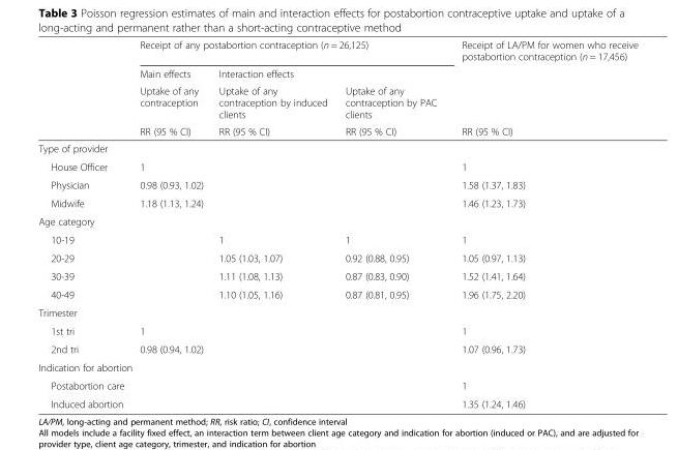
<table><thead><tr><td rowspan="4"></td><td colspan="3">Receipt of any postabortion contraception (n = 26,125)</td><td rowspan="4">Receipt of LA/PM for women who receive postabortion contraception (n = 17,456) RR (95 % CI)</td></tr><tr><td rowspan="3">Main effects Uptake of any contraception RR (95 % CI)</td><td colspan="2">Interaction effects</td></tr><tr><td rowspan="2">Uptake of any contraception by induced clients RR (95 % CI)</td><td rowspan="2">Uptake of any contraception by PAC clients RR (95 % CI)</td></tr><tr></tr></thead><tbody><tr><td colspan="5">Type of provider</td></tr><tr><td>House Officer</td><td>1</td><td></td><td></td><td>1</td></tr><tr><td>Physician</td><td>0.98 (0.93, 1.02)</td><td></td><td></td><td>1.58 (1.37, 1.83)</td></tr><tr><td>Midwife</td><td>1.18 (1.13, 1.24)</td><td></td><td></td><td>1.46 (1.23, 1.73)</td></tr><tr><td colspan="5">Age category</td></tr><tr><td>10-19</td><td></td><td>1</td><td>1</td><td>1</td></tr><tr><td>20-29</td><td></td><td>1.05 (1.03, 1.07)</td><td>0.92 (0.88, 0.95)</td><td>1.05 (0.97, 1.13)</td></tr><tr><td>30-39</td><td></td><td>1.11 (1.08, 1.13)</td><td>0.87 (0.83, 0.90)</td><td>1.52 (1.41, 1.64)</td></tr><tr><td>40-49</td><td></td><td>1.10 (1.05, 1.16)</td><td>0.87 (0.81, 0.95)</td><td>1.96 (1.75, 2.20)</td></tr><tr><td colspan="5">Trimester</td></tr><tr><td>1st tri</td><td>1</td><td></td><td></td><td>1</td></tr><tr><td>2nd tri</td><td>0.98 (0.94, 1.02)</td><td></td><td></td><td>1.07 (0.96, 1.73)</td></tr><tr><td colspan="5">Indication for abortion</td></tr><tr><td>Postabortion care</td><td></td><td></td><td></td><td>1</td></tr><tr><td>Induced abortion</td><td></td><td></td><td></td><td>1.35 (1.24, 1.46)</td></tr></tbody></table>